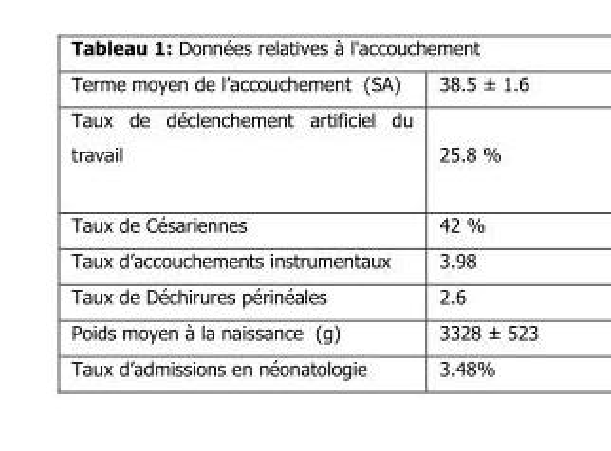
<table><tbody><tr><td>Terme moyen de l’accouchement (SA)</td><td>38.5 ± 1.6</td></tr><tr><td>Taux de déclenchement artificiel du travail</td><td>25.8 %</td></tr><tr><td>Taux de Césariennes</td><td>42 %</td></tr><tr><td>Taux d’accouchements instrumentaux</td><td>3.98</td></tr><tr><td>Taux de Déchirures périnéales</td><td>2.6</td></tr><tr><td>Poids moyen à la naissance (g)</td><td>3328 ± 523</td></tr><tr><td>Taux d’admissions en néonatologie</td><td>3.48%</td></tr></tbody></table>